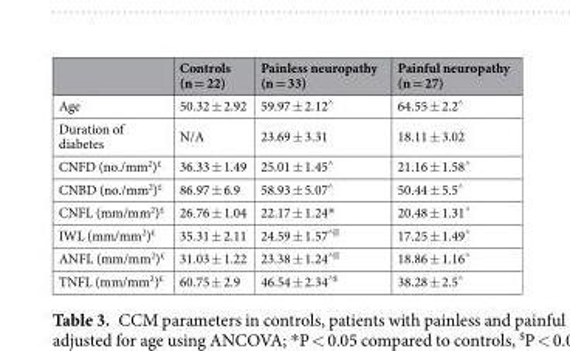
<table><thead><tr><td></td><td>Controls (n = 22)</td><td>Painless neuropathy (n = 33)</td><td>Painful neuropathy (n = 27)</td></tr></thead><tbody><tr><td>Age</td><td>50.32 ± 2.92</td><td>59.97 ± 2.12<sup>^</sup></td><td>64.55 ± 2.2<sup>^</sup></td></tr><tr><td>Duration of diabetes</td><td>N/A</td><td>23.69 ± 3.31</td><td>18.11 ± 3.02</td></tr><tr><td>CNFD (no./mm<sup>2</sup>)<sup>£</sup></td><td>36.33 ± 1.49</td><td>25.01 ± 1.45<sup>^</sup></td><td>21.16 ± 1.58<sup>^</sup></td></tr><tr><td>CNBD (no./mm<sup>2</sup>)<sup>£</sup></td><td>86.97 ± 6.9</td><td>58.93 ± 5.07<sup>^</sup></td><td>50.44 ± 5.5<sup>^</sup></td></tr><tr><td>CNFL (mm/mm<sup>2</sup>)<sup>£</sup></td><td>26.76 ± 1.04</td><td>22.17 ± 1.24*</td><td>20.48 ± 1.31<sup>^</sup></td></tr><tr><td>IWL (mm/mm<sup>2</sup>)<sup>£</sup></td><td>35.31 ± 2.11</td><td>24.59 ± 1.57^II</td><td>17.25 ± 1.49<sup>^</sup></td></tr><tr><td>ANFL (mm/mm<sup>2</sup>)<sup>£</sup></td><td>31.03 ± 1.22</td><td>23.38 ± 1.24^II</td><td>18.86 ± 1.16<sup>^</sup></td></tr><tr><td>TNFL (mm/mm<sup>2</sup>)<sup>£</sup></td><td>60.75 ± 2.9</td><td>46.54 ± 2.34^$</td><td>38.28 ± 2.5<sup>^</sup></td></tr></tbody></table>